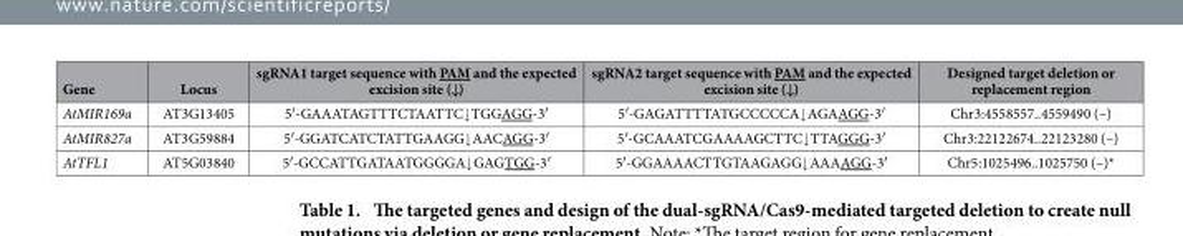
<table><thead><tr><td>Gene</td><td>Locus</td><td>sgRNA1 target sequence with PAM and the expected excision site (↓)</td><td>sgRNA2 target sequence with PAM and the expected excision site (↓)</td><td>Designed target deletion or replacement region</td></tr></thead><tbody><tr><td>AtMIR169a</td><td>AT3G13405</td><td>5′-GAAATAGTTTCTAATTC↓ TGGAGG-3′</td><td>5′-GAGATTTTATGCCCCCA↓ AGAAGG-3′</td><td>Chr3:4558557..4559490 (–)</td></tr><tr><td>AtMIR827a</td><td>AT3G59884</td><td>5′-GGATCATCTATTGAAGG↓ AACAGG-3′</td><td>5′-GCAAATCGAAAAGCTTC↓ TTAGGG-3′</td><td>Chr3:22122674..22123280 (–)</td></tr><tr><td>AtTFL1</td><td>AT5G03840</td><td>5′-GCCATTGATAATGGGGA↓ GAGTGG-3′</td><td>5′-GGAAAACTTGTAAGAGG↓ AAAAGG-3′</td><td>Chr5:1025496..1025750 (–)*</td></tr></tbody></table>